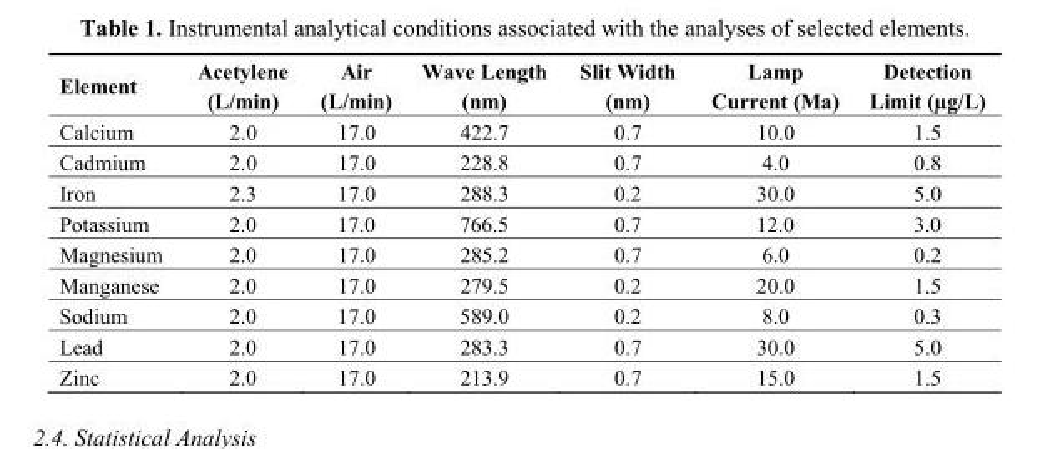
<table><thead><tr><td>Element</td><td>Acetylene (L/min)</td><td>Air (L/min)</td><td>Wave Length (nm)</td><td>Slit Width (nm)</td><td>Lamp Current (Ma)</td><td>Detection Limit (µg/L)</td></tr></thead><tbody><tr><td>Calcium</td><td>2.0</td><td>17.0</td><td>422.7</td><td>0.7</td><td>10.0</td><td>1.5</td></tr><tr><td>Cadmium</td><td>2.0</td><td>17.0</td><td>228.8</td><td>0.7</td><td>4.0</td><td>0.8</td></tr><tr><td>Iron</td><td>2.3</td><td>17.0</td><td>288.3</td><td>0.2</td><td>30.0</td><td>5.0</td></tr><tr><td>Potassium</td><td>2.0</td><td>17.0</td><td>766.5</td><td>0.7</td><td>12.0</td><td>3.0</td></tr><tr><td>Magnesium</td><td>2.0</td><td>17.0</td><td>285.2</td><td>0.7</td><td>6.0</td><td>0.2</td></tr><tr><td>Manganese</td><td>2.0</td><td>17.0</td><td>279.5</td><td>0.2</td><td>20.0</td><td>1.5</td></tr><tr><td>Sodium</td><td>2.0</td><td>17.0</td><td>589.0</td><td>0.2</td><td>8.0</td><td>0.3</td></tr><tr><td>Lead</td><td>2.0</td><td>17.0</td><td>283.3</td><td>0.7</td><td>30.0</td><td>5.0</td></tr><tr><td>Zinc</td><td>2.0</td><td>17.0</td><td>213.9</td><td>0.7</td><td>15.0</td><td>1.5</td></tr></tbody></table>